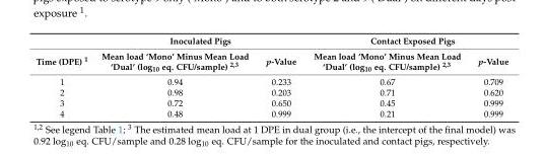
<table><thead><tr><td rowspan="2">Time (DPE) <sup>1</sup></td><td colspan="2">Inoculated Pigs</td><td colspan="2">Contact Exposed Pigs</td></tr><tr><td>Mean load ‘Mono’ Minus Mean Load ‘Dual’ (log<sub>10</sub> eq. CFU/sample) <sup>2,3</sup></td><td>p-Value</td><td>Mean load ‘Mono’ Minus Mean Load ‘Dual’ (log<sub>10</sub> eq. CFU/sample) <sup>2,3</sup></td><td>p-Value</td></tr></thead><tbody><tr><td>1</td><td>0.94</td><td>0.233</td><td>0.67</td><td>0.709</td></tr><tr><td>2</td><td>0.98</td><td>0.203</td><td>0.71</td><td>0.620</td></tr><tr><td>3</td><td>0.72</td><td>0.650</td><td>0.45</td><td>0.999</td></tr><tr><td>4</td><td>0.48</td><td>0.999</td><td>0.21</td><td>0.999</td></tr></tbody></table>